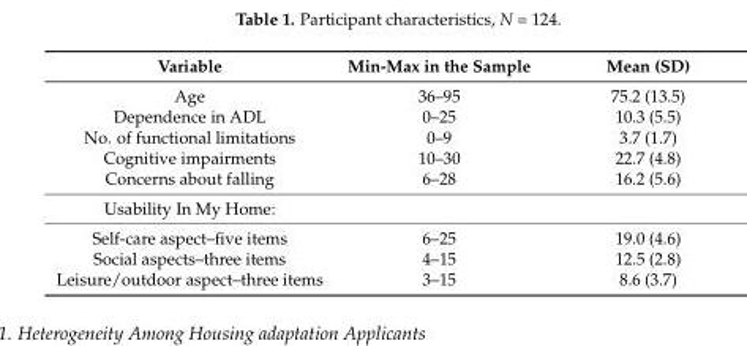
<table><thead><tr><td>Variable</td><td>Min-Max in the Sample</td><td>Mean (SD)</td></tr></thead><tbody><tr><td>Age</td><td>36–95</td><td>75.2 (13.5)</td></tr><tr><td>Dependence in ADL</td><td>0–25</td><td>10.3 (5.5)</td></tr><tr><td>No. of functional limitations</td><td>0–9</td><td>3.7 (1.7)</td></tr><tr><td>Cognitive impairments</td><td>10–30</td><td>22.7 (4.8)</td></tr><tr><td>Concerns about falling</td><td>6–28</td><td>16.2 (5.6)</td></tr><tr><td colspan="3">Usability In My Home:</td></tr><tr><td>Self-care aspect–five items</td><td>6–25</td><td>19.0 (4.6)</td></tr><tr><td>Social aspects–three items</td><td>4–15</td><td>12.5 (2.8)</td></tr><tr><td>Leisure/outdoor aspect–three items</td><td>3–15</td><td>8.6 (3.7)</td></tr></tbody></table>